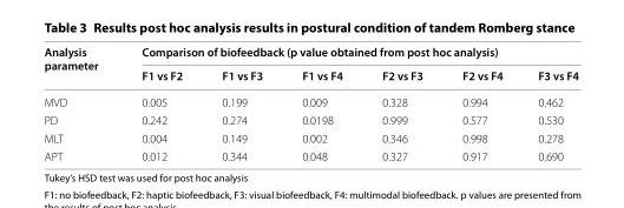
<table><thead><tr><td rowspan="2">Analysis parameter</td><td colspan="6">Comparison of biofeedback (p value obtained from post hoc analysis)</td></tr><tr><td>F1 vs F2</td><td>F1 vs F3</td><td>F1 vs F4</td><td>F2 vs F3</td><td>F2 vs F4</td><td>F3 vs F4</td></tr></thead><tbody><tr><td>MVD</td><td>0.005</td><td>0.199</td><td>0.009</td><td>0.328</td><td>0.994</td><td>0.462</td></tr><tr><td>PD</td><td>0.242</td><td>0.274</td><td>0.0198</td><td>0.999</td><td>0.577</td><td>0.530</td></tr><tr><td>MLT</td><td>0.004</td><td>0.149</td><td>0.002</td><td>0.346</td><td>0.998</td><td>0.278</td></tr><tr><td>APT</td><td>0.012</td><td>0.344</td><td>0.048</td><td>0.327</td><td>0.917</td><td>0.690</td></tr></tbody></table>